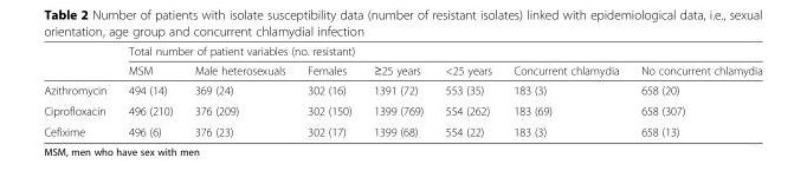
<table><thead><tr><td rowspan="2"></td><td colspan="7">Total number of patient variables (no. resistant)</td></tr><tr><td>MSM</td><td>Male heterosexuals</td><td>Females</td><td>≥25 years</td><td>&lt;25 years</td><td>Concurrent chlamydia</td><td>No concurrent chlamydia</td></tr></thead><tbody><tr><td>Azithromycin</td><td>494 (14)</td><td>369 (24)</td><td>302 (16)</td><td>1391 (72)</td><td>553 (35)</td><td>183 (3)</td><td>658 (20)</td></tr><tr><td>Ciprofloxacin</td><td>496 (210)</td><td>376 (209)</td><td>302 (150)</td><td>1399 (769)</td><td>554 (262)</td><td>183 (69)</td><td>658 (307)</td></tr><tr><td>Cefixime</td><td>496 (6)</td><td>376 (23)</td><td>302 (17)</td><td>1399 (68)</td><td>554 (22)</td><td>183 (3)</td><td>658 (13)</td></tr></tbody></table>